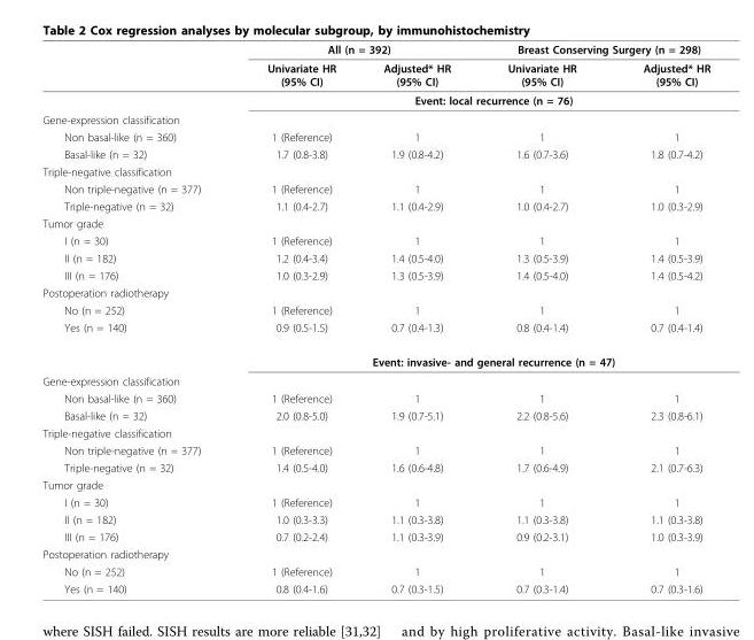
<table><thead><tr><td rowspan="2"></td><td colspan="2">All (n = 392)</td><td colspan="2">Breast Conserving Surgery (n = 298)</td></tr><tr><td>Univariate HR (95% CI)</td><td>Adjusted* HR (95% CI)</td><td>Univariate HR (95% CI)</td><td>Adjusted* HR (95% CI)</td></tr></thead><tbody><tr><td></td><td colspan="4">Event: local recurrence (n = 76)</td></tr><tr><td colspan="5">Gene-expression classification</td></tr><tr><td>Non basal-like (n = 360)</td><td>1 (Reference)</td><td>1</td><td>1</td><td>1</td></tr><tr><td>Basal-like (n = 32)</td><td>1.7 (0.8-3.8)</td><td>1.9 (0.8-4.2)</td><td>1.6 (0.7-3.6)</td><td>1.8 (0.7-4.2)</td></tr><tr><td colspan="5">Triple-negative classification</td></tr><tr><td>Non triple-negative (n = 377)</td><td>1 (Reference)</td><td>1</td><td>1</td><td>1</td></tr><tr><td>Triple-negative (n = 32)</td><td>1.1 (0.4-2.7)</td><td>1.1 (0.4-2.9)</td><td>1.0 (0.4-2.7)</td><td>1.0 (0.3-2.9)</td></tr><tr><td colspan="5">Tumor grade</td></tr><tr><td>I (n = 30)</td><td>1 (Reference)</td><td>1</td><td>1</td><td>1</td></tr><tr><td>II (n = 182)</td><td>1.2 (0.4-3.4)</td><td>1.4 (0.5-4.0)</td><td>1.3 (0.5-3.9)</td><td>1.4 (0.5-3.9)</td></tr><tr><td>III (n = 176)</td><td>1.0 (0.3-2.9)</td><td>1.3 (0.5-3.9)</td><td>1.4 (0.5-4.0)</td><td>1.4 (0.5-4.2)</td></tr><tr><td colspan="5">Postoperation radiotherapy</td></tr><tr><td>No (n = 252)</td><td>1 (Reference)</td><td>1</td><td>1</td><td>1</td></tr><tr><td rowspan="2">Yes (n = 140)</td><td>0.9 (0.5-1.5)</td><td>0.7 (0.4-1.3)</td><td>0.8 (0.4-1.4)</td><td>0.7 (0.4-1.4)</td></tr><tr><td colspan="4">Event: invasive- and general recurrence (n = 47)</td></tr><tr><td colspan="5">Gene-expression classification</td></tr><tr><td>Non basal-like (n = 360)</td><td>1 (Reference)</td><td>1</td><td>1</td><td>1</td></tr><tr><td>Basal-like (n = 32)</td><td>2.0 (0.8-5.0)</td><td>1.9 (0.7-5.1)</td><td>2.2 (0.8-5.6)</td><td>2.3 (0.8-6.1)</td></tr><tr><td colspan="5">Triple-negative classification</td></tr><tr><td>Non triple-negative (n = 377)</td><td>1 (Reference)</td><td>1</td><td>1</td><td>1</td></tr><tr><td>Triple-negative (n = 32)</td><td>1.4 (0.5-4.0)</td><td>1.6 (0.6-4.8)</td><td>1.7 (0.6-4.9)</td><td>2.1 (0.7-6.3)</td></tr><tr><td colspan="5">Tumor grade</td></tr><tr><td>I (n = 30)</td><td>1 (Reference)</td><td>1</td><td>1</td><td>1</td></tr><tr><td>II (n = 182)</td><td>1.0 (0.3-3.3)</td><td>1.1 (0.3-3.8)</td><td>1.1 (0.3-3.8)</td><td>1.1 (0.3-3.8)</td></tr><tr><td>III (n = 176)</td><td>0.7 (0.2-2.4)</td><td>1.1 (0.3-3.9)</td><td>0.9 (0.2-3.1)</td><td>1.0 (0.3-3.9)</td></tr><tr><td colspan="5">Postoperation radiotherapy</td></tr><tr><td>No (n = 252)</td><td>1 (Reference)</td><td>1</td><td>1</td><td>1</td></tr><tr><td>Yes (n = 140)</td><td>0.8 (0.4-1.6)</td><td>0.7 (0.3-1.5)</td><td>0.7 (0.3-1.4)</td><td>0.7 (0.3-1.6)</td></tr></tbody></table>